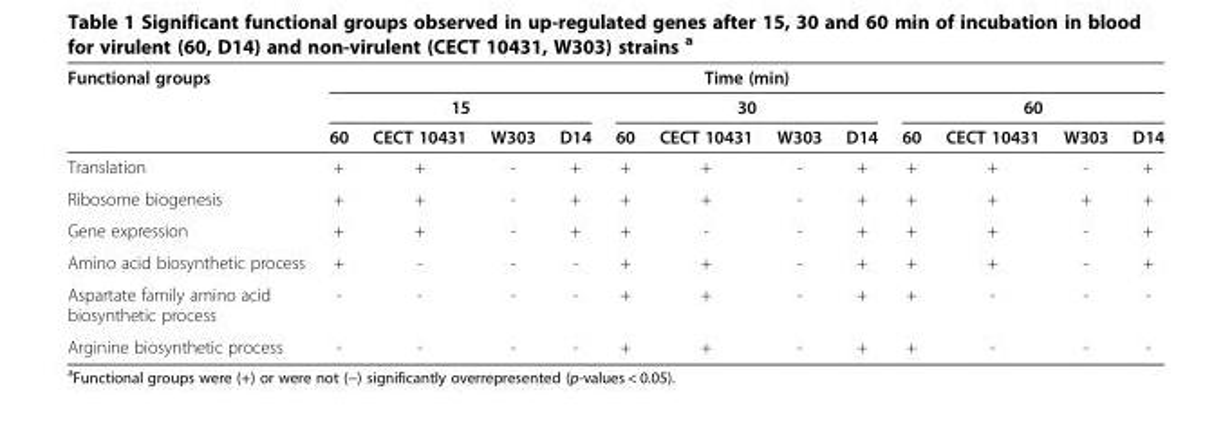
<table><thead><tr><td rowspan="3">Functional groups</td><td colspan="12">Time (min)</td></tr><tr><td colspan="4">15</td><td colspan="4">30</td><td colspan="4">60</td></tr><tr><td>60</td><td>CECT 10431</td><td>W303</td><td>D14</td><td>60</td><td>CECT 10431</td><td>W303</td><td>D14</td><td>60</td><td>CECT 10431</td><td>W303</td><td>D14</td></tr></thead><tbody><tr><td>Translation</td><td>+</td><td>+</td><td>-</td><td>+</td><td>+</td><td>+</td><td>-</td><td>+</td><td>+</td><td>+</td><td>-</td><td>+</td></tr><tr><td>Ribosome biogenesis</td><td>+</td><td>+</td><td>-</td><td>+</td><td>+</td><td>+</td><td>-</td><td>+</td><td>+</td><td>+</td><td>+</td><td>+</td></tr><tr><td>Gene expression</td><td>+</td><td>+</td><td>-</td><td>+</td><td>+</td><td>-</td><td>-</td><td>+</td><td>+</td><td>+</td><td>-</td><td>+</td></tr><tr><td>Amino acid biosynthetic process</td><td>+</td><td>-</td><td>-</td><td>-</td><td>+</td><td>+</td><td>-</td><td>+</td><td>+</td><td>+</td><td>-</td><td>+</td></tr><tr><td>Aspartate family amino acid biosynthetic process</td><td>-</td><td>-</td><td>-</td><td>-</td><td>+</td><td>+</td><td>-</td><td>+</td><td>+</td><td>-</td><td>-</td><td>-</td></tr><tr><td>Arginine biosynthetic process</td><td>-</td><td>-</td><td>-</td><td>-</td><td>+</td><td>+</td><td>-</td><td>+</td><td>+</td><td>-</td><td>-</td><td>-</td></tr></tbody></table>